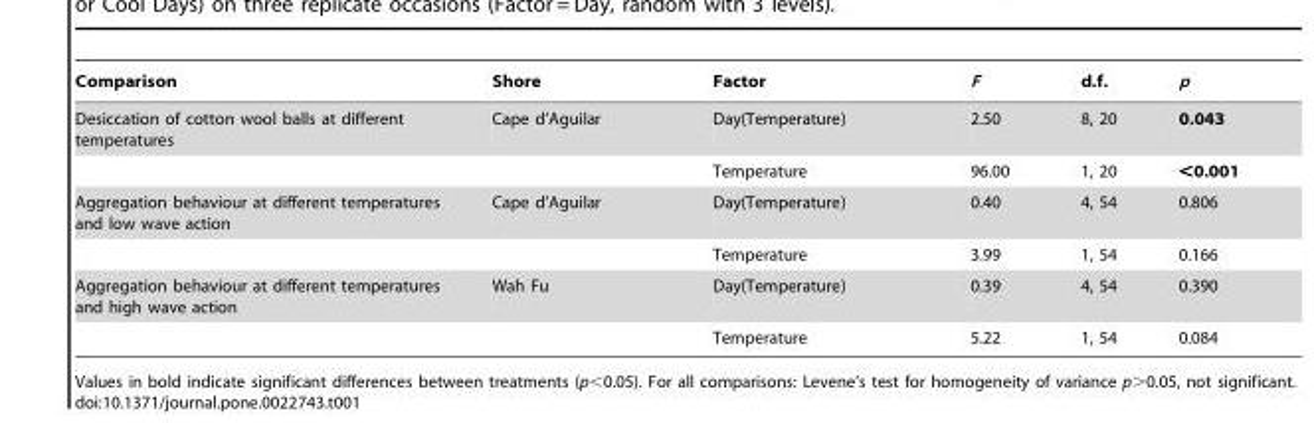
<table><thead><tr><td>Comparison</td><td>Shore</td><td>Factor</td><td>F</td><td>d.f.</td><td>p</td></tr></thead><tbody><tr><td rowspan="2">Desiccation of cotton wool balls at different temperatures</td><td>Cape d’Aguilar</td><td>Day(Temperature)</td><td>2.50</td><td>8, 20</td><td>0.043</td></tr><tr><td></td><td>Temperature</td><td>96.00</td><td>1, 20</td><td>&lt;0.001</td></tr><tr><td rowspan="2">Aggregation behaviour at different temperatures and low wave action</td><td>Cape d’Aguilar</td><td>Day(Temperature)</td><td>0.40</td><td>4, 54</td><td>0.806</td></tr><tr><td></td><td>Temperature</td><td>3.99</td><td>1, 54</td><td>0.166</td></tr><tr><td rowspan="2">Aggregation behaviour at different temperatures and high wave action</td><td>Wah Fu</td><td>Day(Temperature)</td><td>0.39</td><td>4, 54</td><td>0.390</td></tr><tr><td></td><td>Temperature</td><td>5.22</td><td>1, 54</td><td>0.084</td></tr></tbody></table>